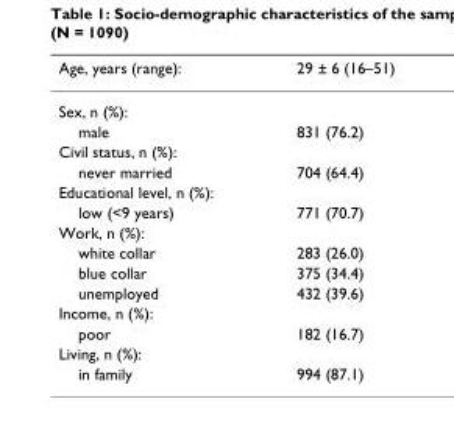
<table><thead><tr><td>Age, years (range):</td><td>29 ± 6 (16–51)</td></tr></thead><tbody><tr><td colspan="2">Sex, n (%):</td></tr><tr><td>male</td><td>831 (76.2)</td></tr><tr><td colspan="2">Civil status, n (%):</td></tr><tr><td>never married</td><td>704 (64.4)</td></tr><tr><td colspan="2">Educational level, n (%):</td></tr><tr><td>low (&lt;9 years)</td><td>771 (70.7)</td></tr><tr><td colspan="2">Work, n (%):</td></tr><tr><td>white collar</td><td>283 (26.0)</td></tr><tr><td>blue collar</td><td>375 (34.4)</td></tr><tr><td>unemployed</td><td>432 (39.6)</td></tr><tr><td colspan="2">Income, n (%):</td></tr><tr><td>poor</td><td>182 (16.7)</td></tr><tr><td colspan="2">Living, n (%):</td></tr><tr><td>in family</td><td>994 (87.1)</td></tr></tbody></table>